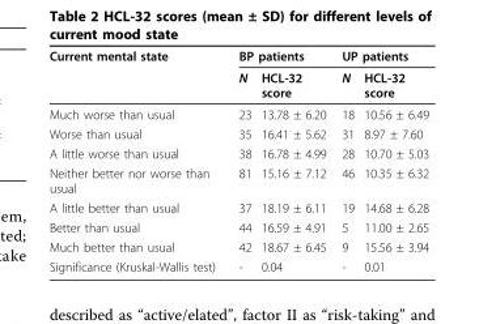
<table><thead><tr><td rowspan="2">Current mental state</td><td colspan="2">BP patients</td><td colspan="2">UP patients</td></tr><tr><td>N</td><td>HCL-32 score</td><td>N</td><td>HCL-32 score</td></tr></thead><tbody><tr><td>Much worse than usual</td><td>23</td><td>13.78 ± 6.20</td><td>18</td><td>10.56 ± 6.49</td></tr><tr><td>Worse than usual</td><td>35</td><td>16.41 ± 5.62</td><td>31</td><td>8.97 ± 7.60</td></tr><tr><td>A little worse than usual</td><td>38</td><td>16.78 ± 4.99</td><td>28</td><td>10.70 ± 5.03</td></tr><tr><td>Neither better nor worse than usual</td><td>81</td><td>15.16 ± 7.12</td><td>46</td><td>10.35 ± 6.32</td></tr><tr><td>A little better than usual</td><td>37</td><td>18.19 ± 6.11</td><td>19</td><td>14.68 ± 6.28</td></tr><tr><td>Better than usual</td><td>44</td><td>16.59 ± 4.91</td><td>5</td><td>11.00 ± 2.65</td></tr><tr><td>Much better than usual</td><td>42</td><td>18.67 ± 6.45</td><td>9</td><td>15.56 ± 3.94</td></tr><tr><td>Significance (Kruskal-Wallis test)</td><td>-</td><td>0.04</td><td>-</td><td>0.01</td></tr></tbody></table>